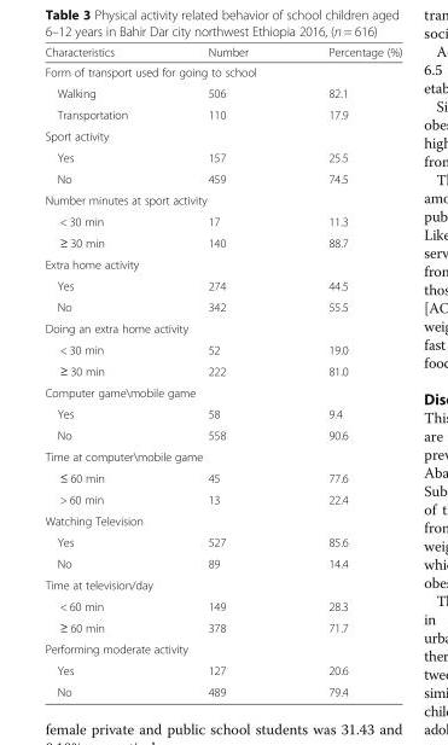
<table><thead><tr><td>Characteristics</td><td>Number</td><td>Percentage (%)</td></tr></thead><tbody><tr><td colspan="3">Form of transport used for going to school</td></tr><tr><td>Walking</td><td>506</td><td>82.1</td></tr><tr><td>Transportation</td><td>110</td><td>17.9</td></tr><tr><td colspan="3">Sport activity</td></tr><tr><td>Yes</td><td>157</td><td>25.5</td></tr><tr><td>No</td><td>459</td><td>74.5</td></tr><tr><td colspan="3">Number minutes at sport activity</td></tr><tr><td>&lt; 30 min</td><td>17</td><td>11.3</td></tr><tr><td>≥ 30 min</td><td>140</td><td>88.7</td></tr><tr><td colspan="3">Extra home activity</td></tr><tr><td>Yes</td><td>274</td><td>44.5</td></tr><tr><td>No</td><td>342</td><td>55.5</td></tr><tr><td colspan="3">Doing an extra home activity</td></tr><tr><td>&lt; 30 min</td><td>52</td><td>19.0</td></tr><tr><td>≥ 30 min</td><td>222</td><td>81.0</td></tr><tr><td colspan="3">Computer game\mobile game</td></tr><tr><td>Yes</td><td>58</td><td>9.4</td></tr><tr><td>No</td><td>558</td><td>90.6</td></tr><tr><td colspan="3">Time at computer\mobile game</td></tr><tr><td>≤ 60 min</td><td>45</td><td>77.6</td></tr><tr><td>&gt; 60 min</td><td>13</td><td>22.4</td></tr><tr><td colspan="3">Watching Television</td></tr><tr><td>Yes</td><td>527</td><td>85.6</td></tr><tr><td>No</td><td>89</td><td>14.4</td></tr><tr><td colspan="3">Time at television/day</td></tr><tr><td>&lt; 60 min</td><td>149</td><td>28.3</td></tr><tr><td>≥ 60 min</td><td>378</td><td>71.7</td></tr><tr><td colspan="3">Performing moderate activity</td></tr><tr><td>Yes</td><td>127</td><td>20.6</td></tr><tr><td>No</td><td>489</td><td>79.4</td></tr></tbody></table>